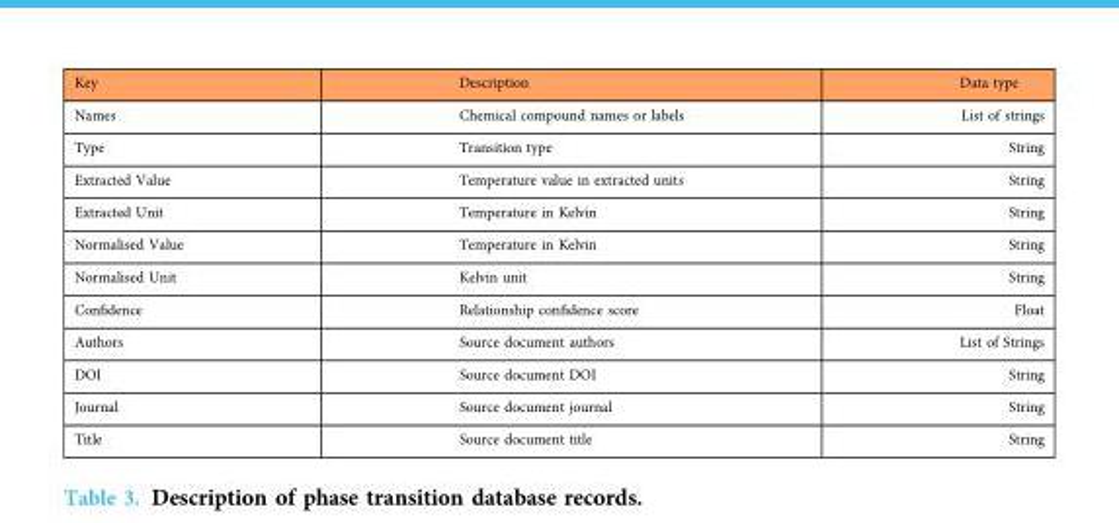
<table><thead><tr><td>Key</td><td>Description</td><td>Data type</td></tr></thead><tbody><tr><td>Names</td><td>Chemical compound names or labels</td><td>List of strings</td></tr><tr><td>Type</td><td>Transition type</td><td>String</td></tr><tr><td>Extracted Value</td><td>Temperature value in extracted units</td><td>String</td></tr><tr><td>Extracted Unit</td><td>Temperature in Kelvin</td><td>String</td></tr><tr><td>Normalised Value</td><td>Temperature in Kelvin</td><td>String</td></tr><tr><td>Normalised Unit</td><td>Kelvin unit</td><td>String</td></tr><tr><td>Confidence</td><td>Relationship confidence score</td><td>Float</td></tr><tr><td>Authors</td><td>Source document authors</td><td>List of Strings</td></tr><tr><td>DOI</td><td>Source document DOI</td><td>String</td></tr><tr><td>Journal</td><td>Source document journal</td><td>String</td></tr><tr><td>Title</td><td>Source document title</td><td>String</td></tr></tbody></table>